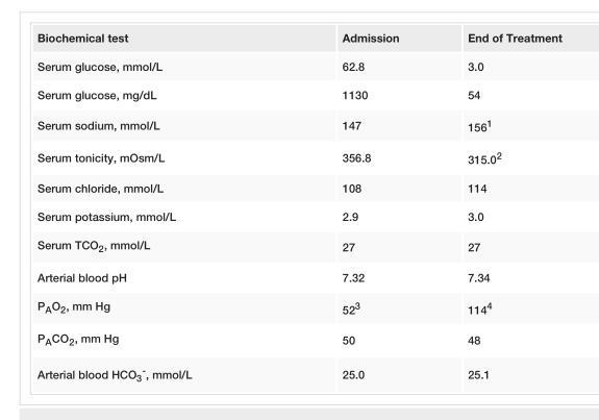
<table><tbody><tr><td>Biochemical test</td><td>Admission</td><td>End of Treatment</td></tr><tr><td>Serum glucose, mmol/L</td><td>62.8</td><td>3.0</td></tr><tr><td>Serum glucose, mg/dL</td><td>1130</td><td>54</td></tr><tr><td>Serum sodium, mmol/L</td><td>147</td><td>156<sup>1</sup></td></tr><tr><td>Serum tonicity, mOsm/L</td><td>356.8</td><td>315.0<sup>2</sup></td></tr><tr><td>Serum chloride, mmol/L</td><td>108</td><td>114</td></tr><tr><td>Serum potassium, mmol/L</td><td>2.9</td><td>3.0</td></tr><tr><td>Serum TCO<sub>2</sub>, mmol/L</td><td>27</td><td>27</td></tr><tr><td>Arterial blood pH</td><td>7.32</td><td>7.34</td></tr><tr><td>P<sub>A</sub>O<sub>2</sub>, mm Hg</td><td>52<sup>3</sup></td><td>114<sup>4</sup></td></tr><tr><td>P<sub>A</sub>CO<sub>2</sub>, mm Hg</td><td>50</td><td>48</td></tr><tr><td>Arterial blood HCO<sub>3</sub> <sup>-</sup>, mmol/L</td><td>25.0</td><td>25.1</td></tr></tbody></table>